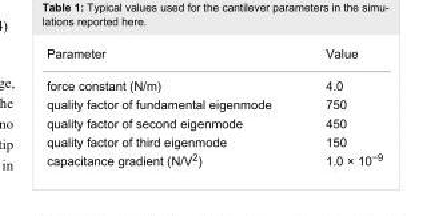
<table><tbody><tr><td>Parameter</td><td>Value</td></tr><tr><td>force constant (N/m)</td><td>4.0</td></tr><tr><td>quality factor of fundamental eigenmode</td><td>750</td></tr><tr><td>quality factor of second eigenmode</td><td>450</td></tr><tr><td>quality factor of third eigenmode</td><td>150</td></tr><tr><td>capacitance gradient (N/V<sup>2</sup>)</td><td>1.0 × 10<sup>−9</sup></td></tr></tbody></table>